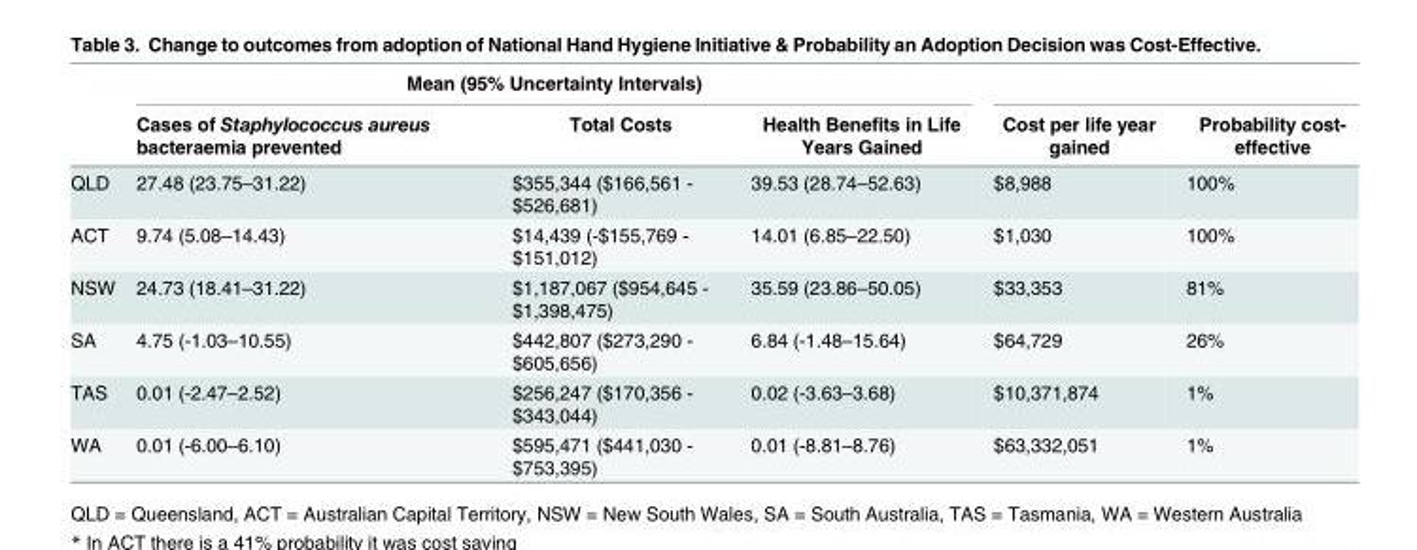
<table><thead><tr><td rowspan="2"></td><td colspan="3">Mean (95% Uncertainty Intervals)</td><td rowspan="2">Cost per life year gained</td><td rowspan="2">Probability cost- effective</td></tr><tr><td>Cases of Staphylococcus aureus bacteraemia prevented</td><td>Total Costs</td><td>Health Benefits in Life Years Gained</td></tr></thead><tbody><tr><td>QLD</td><td>27.48 (23.75–31.22)</td><td>$355,344 ($166,561 - $526,681)</td><td>39.53 (28.74–52.63)</td><td>$8,988</td><td>100%</td></tr><tr><td>ACT</td><td>9.74 (5.08–14.43)</td><td>$14,439 (-$155,769 - $151,012)</td><td>14.01 (6.85–22.50)</td><td>$1,030</td><td>100%</td></tr><tr><td>NSW</td><td>24.73 (18.41–31.22)</td><td>$1,187,067 ($954,645 - $1,398,475)</td><td>35.59 (23.86–50.05)</td><td>$33,353</td><td>81%</td></tr><tr><td>SA</td><td>4.75 (-1.03–10.55)</td><td>$442,807 ($273,290 - $605,656)</td><td>6.84 (-1.48–15.64)</td><td>$64,729</td><td>26%</td></tr><tr><td>TAS</td><td>0.01 (-2.47–2.52)</td><td>$256,247 ($170,356 - $343,044)</td><td>0.02 (-3.63–3.68)</td><td>$10,371,874</td><td>1%</td></tr><tr><td>WA</td><td>0.01 (-6.00–6.10)</td><td>$595,471 ($441,030 - $753,395)</td><td>0.01 (-8.81–8.76)</td><td>$63,332,051</td><td>1%</td></tr></tbody></table>